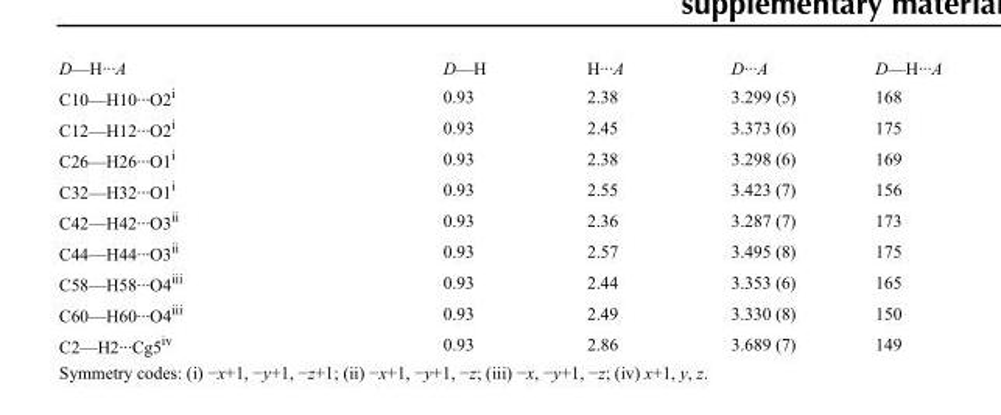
<table><tbody><tr><td>D—H···A</td><td>D—H</td><td>H···A</td><td>D···A</td><td>D—H···A</td></tr><tr><td>C10—H10···O2<sup>i</sup></td><td>0.93</td><td>2.38</td><td>3.299 (5)</td><td>168</td></tr><tr><td>C12—H12···O2<sup>i</sup></td><td>0.93</td><td>2.45</td><td>3.373 (6)</td><td>175</td></tr><tr><td>C26—H26···O1<sup>i</sup></td><td>0.93</td><td>2.38</td><td>3.298 (6)</td><td>169</td></tr><tr><td>C32—H32···O1<sup>i</sup></td><td>0.93</td><td>2.55</td><td>3.423 (7)</td><td>156</td></tr><tr><td>C42—H42···O3<sup>ii</sup></td><td>0.93</td><td>2.36</td><td>3.287 (7)</td><td>173</td></tr><tr><td>C44—H44···O3<sup>ii</sup></td><td>0.93</td><td>2.57</td><td>3.495 (8)</td><td>175</td></tr><tr><td>C58—H58···O4<sup>iii</sup></td><td>0.93</td><td>2.44</td><td>3.353 (6)</td><td>165</td></tr><tr><td>C60—H60···O4<sup>iii</sup></td><td>0.93</td><td>2.49</td><td>3.330 (8)</td><td>150</td></tr><tr><td>C2—H2···Cg5<sup>iv</sup></td><td>0.93</td><td>2.86</td><td>3.689 (7)</td><td>149</td></tr></tbody></table>